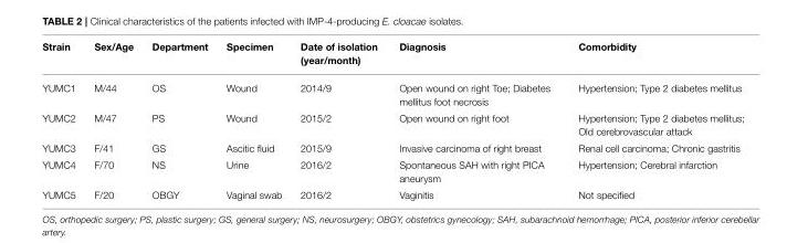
<table><thead><tr><td>Strain</td><td>Sex/Age</td><td>Department</td><td>Specimen</td><td>Date of isolation (year/month)</td><td>Diagnosis</td><td>Comorbidity</td></tr></thead><tbody><tr><td>YUMC1</td><td>M/44</td><td>OS</td><td>Wound</td><td>2014/9</td><td>Open wound on right Toe; Diabetes mellitus foot necrosis</td><td>Hypertension; Type 2 diabetes mellitus</td></tr><tr><td>YUMC2</td><td>M/47</td><td>PS</td><td>Wound</td><td>2015/2</td><td>Open wound on right foot</td><td>Hypertension; Type 2 diabetes mellitus; Old cerebrovascular attack</td></tr><tr><td>YUMC3</td><td>F/41</td><td>GS</td><td>Ascitic fluid</td><td>2015/9</td><td>Invasive carcinoma of right breast</td><td>Renal cell carcinoma; Chronic gastritis</td></tr><tr><td>YUMC4</td><td>F/70</td><td>NS</td><td>Urine</td><td>2016/2</td><td>Spontaneous SAH with right PICA aneurysm</td><td>Hypertension; Cerebral infarction</td></tr><tr><td>YUMC5</td><td>F/20</td><td>OBGY</td><td>Vaginal swab</td><td>2016/2</td><td>Vaginitis</td><td>Not specified</td></tr></tbody></table>